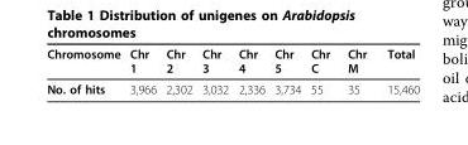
<table><thead><tr><td>Chromosome</td><td>Chr 1</td><td>Chr 2</td><td>Chr 3</td><td>Chr 4</td><td>Chr 5</td><td>Chr C</td><td>Chr M</td><td>Total</td></tr></thead><tbody><tr><td>No. of hits</td><td>3,966</td><td>2,302</td><td>3,032</td><td>2,336</td><td>3,734</td><td>55</td><td>35</td><td>15,460</td></tr></tbody></table>